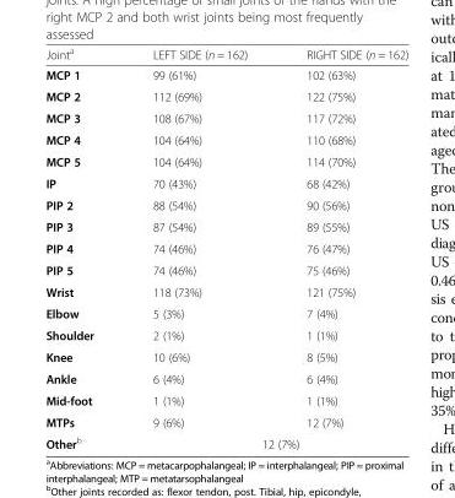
<table><thead><tr><td>Joint<sup>a</sup></td><td>LEFT SIDE (n = 162)</td><td>RIGHT SIDE (n = 162)</td></tr></thead><tbody><tr><td>MCP 1</td><td>99 (61%)</td><td>102 (63%)</td></tr><tr><td>MCP 2</td><td>112 (69%)</td><td>122 (75%)</td></tr><tr><td>MCP 3</td><td>108 (67%)</td><td>117 (72%)</td></tr><tr><td>MCP 4</td><td>104 (64%)</td><td>110 (68%)</td></tr><tr><td>MCP 5</td><td>104 (64%)</td><td>114 (70%)</td></tr><tr><td>IP</td><td>70 (43%)</td><td>68 (42%)</td></tr><tr><td>PIP 2</td><td>88 (54%)</td><td>90 (56%)</td></tr><tr><td>PIP 3</td><td>87 (54%)</td><td>89 (55%)</td></tr><tr><td>PIP 4</td><td>74 (46%)</td><td>76 (47%)</td></tr><tr><td>PIP 5</td><td>74 (46%)</td><td>75 (46%)</td></tr><tr><td>Wrist</td><td>118 (73%)</td><td>121 (75%)</td></tr><tr><td>Elbow</td><td>5 (3%)</td><td>7 (4%)</td></tr><tr><td>Shoulder</td><td>2 (1%)</td><td>1 (1%)</td></tr><tr><td>Knee</td><td>10 (6%)</td><td>8 (5%)</td></tr><tr><td>Ankle</td><td>6 (4%)</td><td>6 (4%)</td></tr><tr><td>Mid-foot</td><td>1 (1%)</td><td>1 (1%)</td></tr><tr><td>MTPs</td><td>9 (6%)</td><td>12 (7%)</td></tr><tr><td>Other<sup>b</sup></td><td colspan="2">12 (7%)</td></tr></tbody></table>